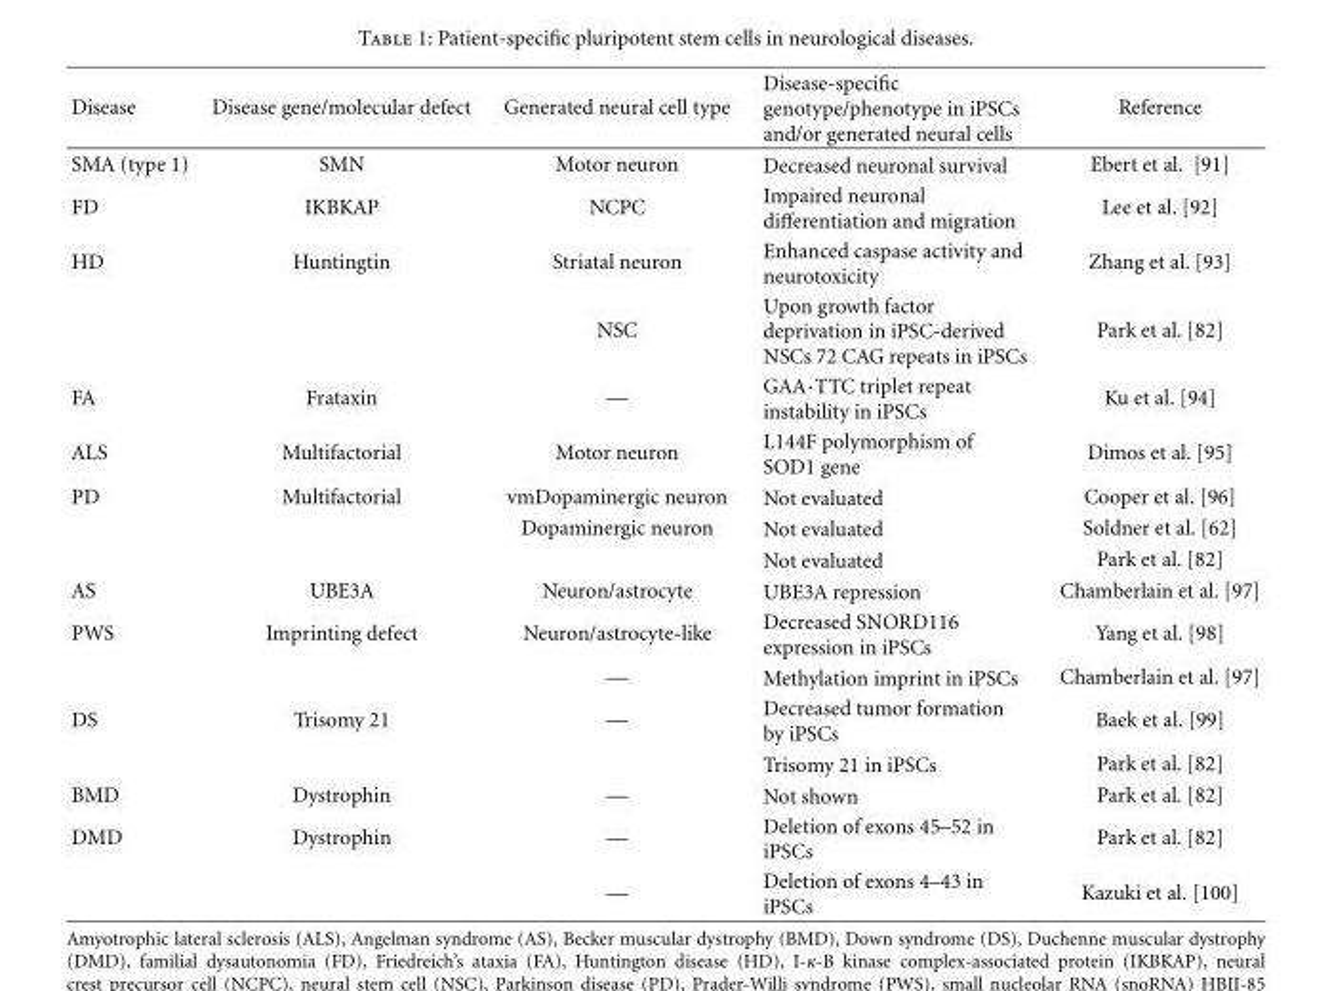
<table><thead><tr><td>Disease</td><td>Disease gene/molecular defect</td><td>Generated neural cell type</td><td>Disease-specific genotype/phenotype in iPSCs and/or generated neural cells</td><td>Reference</td></tr></thead><tbody><tr><td>SMA (type 1)</td><td>SMN</td><td>Motor neuron</td><td>Decreased neuronal survival</td><td>Ebert et al. [91]</td></tr><tr><td>FD</td><td>IKBKAP</td><td>NCPC</td><td>Impaired neuronal differentiation and migration</td><td>Lee et al. [92]</td></tr><tr><td rowspan="2">HD</td><td>Huntingtin</td><td>Striatal neuron</td><td>Enhanced caspase activity and neurotoxicity</td><td>Zhang et al. [93]</td></tr><tr><td></td><td>NSC</td><td>Upon growth factor deprivation in iPSC-derived NSCs 72 CAG repeats in iPSCs</td><td>Park et al. [82]</td></tr><tr><td>FA</td><td>Frataxin</td><td>—</td><td>GAA·TTC triplet repeat instability in iPSCs</td><td>Ku et al. [94]</td></tr><tr><td>ALS</td><td>Multifactorial</td><td>Motor neuron</td><td>L144F polymorphism of SOD1 gene</td><td>Dimos et al. [95]</td></tr><tr><td rowspan="3">PD</td><td>Multifactorial</td><td>vmDopaminergic neuron</td><td>Not evaluated</td><td>Cooper et al. [96]</td></tr><tr><td></td><td>Dopaminergic neuron</td><td>Not evaluated</td><td>Soldner et al. [62]</td></tr><tr><td></td><td></td><td>Not evaluated</td><td>Park et al. [82]</td></tr><tr><td>AS</td><td>UBE3A</td><td>Neuron/astrocyte</td><td>UBE3A repression</td><td>Chamberlain et al. [97]</td></tr><tr><td rowspan="2">PWS</td><td>Imprinting defect</td><td>Neuron/astrocyte-like</td><td>Decreased SNORD116 expression in iPSCs</td><td>Yang et al. [98]</td></tr><tr><td></td><td>—</td><td>Methylation imprint in iPSCs</td><td>Chamberlain et al. [97]</td></tr><tr><td rowspan="2">DS</td><td>Trisomy 21</td><td>—</td><td>Decreased tumor formation by iPSCs</td><td>Baek et al. [99]</td></tr><tr><td></td><td></td><td>Trisomy 21 in iPSCs</td><td>Park et al. [82]</td></tr><tr><td>BMD</td><td>Dystrophin</td><td>—</td><td>Not shown</td><td>Park et al. [82]</td></tr><tr><td rowspan="2">DMD</td><td>Dystrophin</td><td>—</td><td>Deletion of exons 45–52 in iPSCs</td><td>Park et al. [82]</td></tr><tr><td></td><td>—</td><td>Deletion of exons 4–43 in iPSCs</td><td>Kazuki et al. [100]</td></tr></tbody></table>